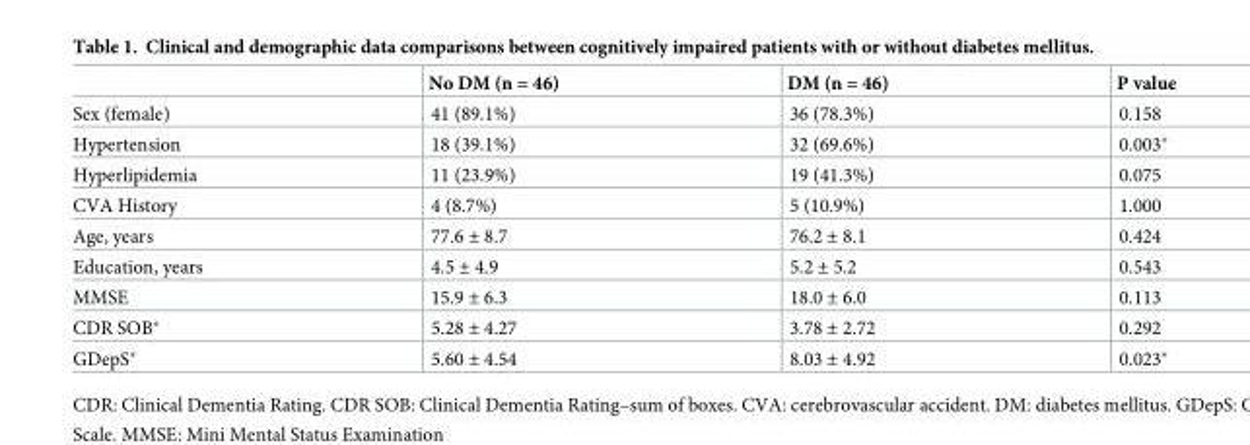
<table><thead><tr><td></td><td>No DM (n = 46)</td><td>DM (n = 46)</td><td>P value</td></tr></thead><tbody><tr><td>Sex (female)</td><td>41 (89.1%)</td><td>36 (78.3%)</td><td>0.158</td></tr><tr><td>Hypertension</td><td>18 (39.1%)</td><td>32 (69.6%)</td><td>0.003*</td></tr><tr><td>Hyperlipidemia</td><td>11 (23.9%)</td><td>19 (41.3%)</td><td>0.075</td></tr><tr><td>CVA History</td><td>4 (8.7%)</td><td>5 (10.9%)</td><td>1.000</td></tr><tr><td>Age, years</td><td>77.6 ± 8.7</td><td>76.2 ± 8.1</td><td>0.424</td></tr><tr><td>Education, years</td><td>4.5 ± 4.9</td><td>5.2 ± 5.2</td><td>0.543</td></tr><tr><td>MMSE</td><td>15.9 ± 6.3</td><td>18.0 ± 6.0</td><td>0.113</td></tr><tr><td>CDR SOB*</td><td>5.28 ± 4.27</td><td>3.78 ± 2.72</td><td>0.292</td></tr><tr><td>GDepS*</td><td>5.60 ± 4.54</td><td>8.03 ± 4.92</td><td>0.023*</td></tr></tbody></table>